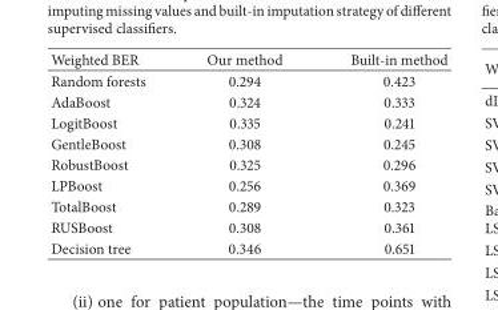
<table><thead><tr><td>Weighted BER</td><td>Our method</td><td>Built-in method</td></tr></thead><tbody><tr><td>Random forests</td><td>0.294</td><td>0.423</td></tr><tr><td>AdaBoost</td><td>0.324</td><td>0.333</td></tr><tr><td>LogitBoost</td><td>0.335</td><td>0.241</td></tr><tr><td>GentleBoost</td><td>0.308</td><td>0.245</td></tr><tr><td>RobustBoost</td><td>0.325</td><td>0.296</td></tr><tr><td>LPBoost</td><td>0.256</td><td>0.369</td></tr><tr><td>TotalBoost</td><td>0.289</td><td>0.323</td></tr><tr><td>RUSBoost</td><td>0.308</td><td>0.361</td></tr><tr><td>Decision tree</td><td>0.346</td><td>0.651</td></tr></tbody></table>